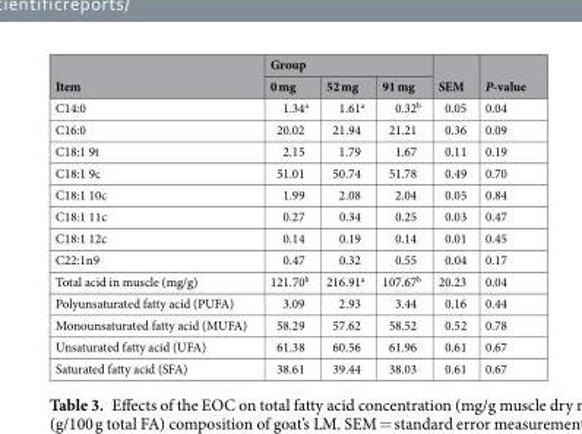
<table><thead><tr><td rowspan="2">Item</td><td colspan="3">Group</td><td rowspan="2">SEM</td><td rowspan="2">P-value</td></tr><tr><td>0 mg</td><td>52 mg</td><td>91 mg</td></tr></thead><tbody><tr><td>C14:0</td><td>1.34<sup>a</sup></td><td>1.61<sup>a</sup></td><td>0.32<sup>b</sup></td><td>0.05</td><td>0.04</td></tr><tr><td>C16:0</td><td>20.02</td><td>21.94</td><td>21.21</td><td>0.36</td><td>0.09</td></tr><tr><td>C18:1 9t</td><td>2.15</td><td>1.79</td><td>1.67</td><td>0.11</td><td>0.19</td></tr><tr><td>C18:1 9c</td><td>51.01</td><td>50.74</td><td>51.78</td><td>0.49</td><td>0.70</td></tr><tr><td>C18:1 10c</td><td>1.99</td><td>2.08</td><td>2.04</td><td>0.05</td><td>0.84</td></tr><tr><td>C18:1 11c</td><td>0.27</td><td>0.34</td><td>0.25</td><td>0.03</td><td>0.47</td></tr><tr><td>C18:1 12c</td><td>0.14</td><td>0.19</td><td>0.14</td><td>0.01</td><td>0.45</td></tr><tr><td>C22:1n9</td><td>0.47</td><td>0.32</td><td>0.55</td><td>0.04</td><td>0.17</td></tr><tr><td>Total acid in muscle (mg/g)</td><td>121.70<sup>b</sup></td><td>216.91<sup>a</sup></td><td>107.67<sup>b</sup></td><td>20.23</td><td>0.04</td></tr><tr><td>Polyunsaturated fatty acid (PUFA)</td><td>3.09</td><td>2.93</td><td>3.44</td><td>0.16</td><td>0.44</td></tr><tr><td>Monounsaturated fatty acid (MUFA)</td><td>58.29</td><td>57.62</td><td>58.52</td><td>0.52</td><td>0.78</td></tr><tr><td>Unsaturated fatty acid (UFA)</td><td>61.38</td><td>60.56</td><td>61.96</td><td>0.61</td><td>0.67</td></tr><tr><td>Saturated fatty acid (SFA)</td><td>38.61</td><td>39.44</td><td>38.03</td><td>0.61</td><td>0.67</td></tr></tbody></table>